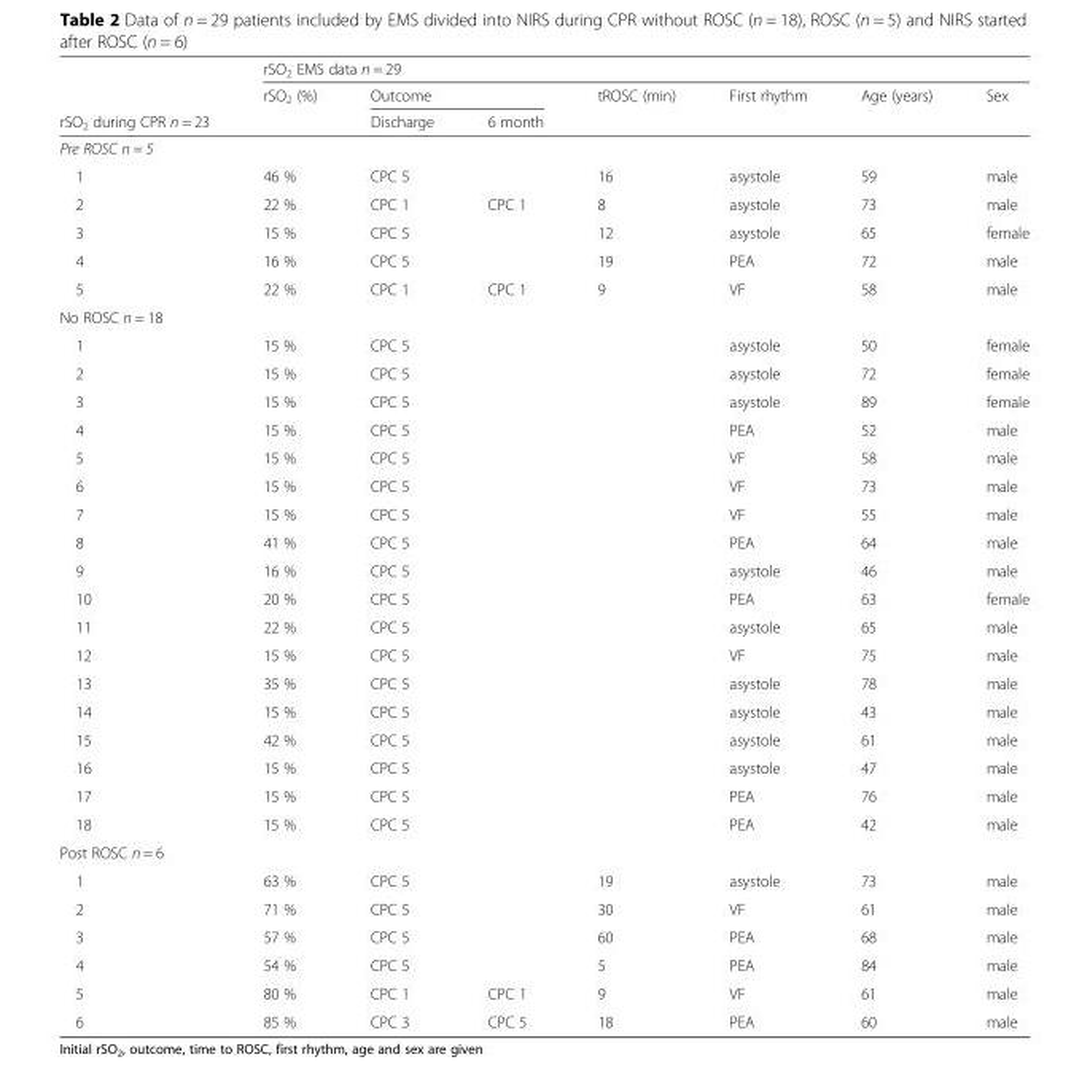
<table><thead><tr><td rowspan="3">rSO<sub>2</sub> during CPR n = 23</td><td colspan="7">rSO<sub>2</sub> EMS data n = 29</td></tr><tr><td rowspan="2">rSO<sub>2</sub> (%)</td><td colspan="2">Outcome</td><td rowspan="2">tROSC (min)</td><td rowspan="2">First rhythm</td><td rowspan="2">Age (years)</td><td rowspan="2">Sex</td></tr><tr><td>Discharge</td><td>6 month</td></tr></thead><tbody><tr><td colspan="8">Pre ROSC n = 5</td></tr><tr><td>1</td><td>46 %</td><td>CPC 5</td><td></td><td>16</td><td>asystole</td><td>59</td><td>male</td></tr><tr><td>2</td><td>22 %</td><td>CPC 1</td><td>CPC 1</td><td>8</td><td>asystole</td><td>73</td><td>male</td></tr><tr><td>3</td><td>15 %</td><td>CPC 5</td><td></td><td>12</td><td>asystole</td><td>65</td><td>female</td></tr><tr><td>4</td><td>16 %</td><td>CPC 5</td><td></td><td>19</td><td>PEA</td><td>72</td><td>male</td></tr><tr><td>5</td><td>22 %</td><td>CPC 1</td><td>CPC 1</td><td>9</td><td>VF</td><td>58</td><td>male</td></tr><tr><td colspan="8">No ROSC n = 18</td></tr><tr><td>1</td><td>15 %</td><td>CPC 5</td><td></td><td></td><td>asystole</td><td>50</td><td>female</td></tr><tr><td>2</td><td>15 %</td><td>CPC 5</td><td></td><td></td><td>asystole</td><td>72</td><td>female</td></tr><tr><td>3</td><td>15 %</td><td>CPC 5</td><td></td><td></td><td>asystole</td><td>89</td><td>female</td></tr><tr><td>4</td><td>15 %</td><td>CPC 5</td><td></td><td></td><td>PEA</td><td>52</td><td>male</td></tr><tr><td>5</td><td>15 %</td><td>CPC 5</td><td></td><td></td><td>VF</td><td>58</td><td>male</td></tr><tr><td>6</td><td>15 %</td><td>CPC 5</td><td></td><td></td><td>VF</td><td>73</td><td>male</td></tr><tr><td>7</td><td>15 %</td><td>CPC 5</td><td></td><td></td><td>VF</td><td>55</td><td>male</td></tr><tr><td>8</td><td>41 %</td><td>CPC 5</td><td></td><td></td><td>PEA</td><td>64</td><td>male</td></tr><tr><td>9</td><td>16 %</td><td>CPC 5</td><td></td><td></td><td>asystole</td><td>46</td><td>male</td></tr><tr><td>10</td><td>20 %</td><td>CPC 5</td><td></td><td></td><td>PEA</td><td>63</td><td>female</td></tr><tr><td>11</td><td>22 %</td><td>CPC 5</td><td></td><td></td><td>asystole</td><td>65</td><td>male</td></tr><tr><td>12</td><td>15 %</td><td>CPC 5</td><td></td><td></td><td>VF</td><td>75</td><td>male</td></tr><tr><td>13</td><td>35 %</td><td>CPC 5</td><td></td><td></td><td>asystole</td><td>78</td><td>male</td></tr><tr><td>14</td><td>15 %</td><td>CPC 5</td><td></td><td></td><td>asystole</td><td>43</td><td>male</td></tr><tr><td>15</td><td>42 %</td><td>CPC 5</td><td></td><td></td><td>asystole</td><td>61</td><td>male</td></tr><tr><td>16</td><td>15 %</td><td>CPC 5</td><td></td><td></td><td>asystole</td><td>47</td><td>male</td></tr><tr><td>17</td><td>15 %</td><td>CPC 5</td><td></td><td></td><td>PEA</td><td>76</td><td>male</td></tr><tr><td>18</td><td>15 %</td><td>CPC 5</td><td></td><td></td><td>PEA</td><td>42</td><td>male</td></tr><tr><td colspan="8">Post ROSC n = 6</td></tr><tr><td>1</td><td>63 %</td><td>CPC 5</td><td></td><td>19</td><td>asystole</td><td>73</td><td>male</td></tr><tr><td>2</td><td>71 %</td><td>CPC 5</td><td></td><td>30</td><td>VF</td><td>61</td><td>male</td></tr><tr><td>3</td><td>57 %</td><td>CPC 5</td><td></td><td>60</td><td>PEA</td><td>68</td><td>male</td></tr><tr><td>4</td><td>54 %</td><td>CPC 5</td><td></td><td>5</td><td>PEA</td><td>84</td><td>male</td></tr><tr><td>5</td><td>80 %</td><td>CPC 1</td><td>CPC 1</td><td>9</td><td>VF</td><td>61</td><td>male</td></tr><tr><td>6</td><td>85 %</td><td>CPC 3</td><td>CPC 5</td><td>18</td><td>PEA</td><td>60</td><td>male</td></tr></tbody></table>